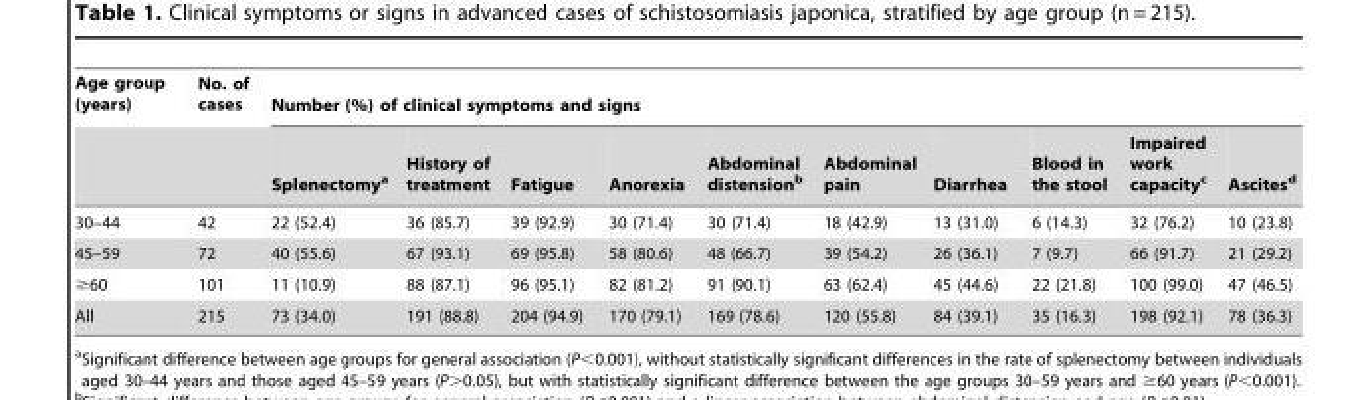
<table><thead><tr><td rowspan="2">Age group (years)</td><td rowspan="2">No. of cases</td><td colspan="10">Number (%) of clinical symptoms and signs</td></tr><tr><td>Splenectomy<sup>a</sup></td><td>History of treatment</td><td>Fatigue</td><td>Anorexia</td><td>Abdominal distension<sup>b</sup></td><td>Abdominal pain</td><td>Diarrhea</td><td>Blood in the stool</td><td>Impaired work capacity<sup>c</sup></td><td>Ascites<sup>d</sup></td></tr></thead><tbody><tr><td>30–44</td><td>42</td><td>22 (52.4)</td><td>36 (85.7)</td><td>39 (92.9)</td><td>30 (71.4)</td><td>30 (71.4)</td><td>18 (42.9)</td><td>13 (31.0)</td><td>6 (14.3)</td><td>32 (76.2)</td><td>10 (23.8)</td></tr><tr><td>45–59</td><td>72</td><td>40 (55.6)</td><td>67 (93.1)</td><td>69 (95.8)</td><td>58 (80.6)</td><td>48 (66.7)</td><td>39 (54.2)</td><td>26 (36.1)</td><td>7 (9.7)</td><td>66 (91.7)</td><td>21 (29.2)</td></tr><tr><td>≥60</td><td>101</td><td>11 (10.9)</td><td>88 (87.1)</td><td>96 (95.1)</td><td>82 (81.2)</td><td>91 (90.1)</td><td>63 (62.4)</td><td>45 (44.6)</td><td>22 (21.8)</td><td>100 (99.0)</td><td>47 (46.5)</td></tr><tr><td>All</td><td>215</td><td>73 (34.0)</td><td>191 (88.8)</td><td>204 (94.9)</td><td>170 (79.1)</td><td>169 (78.6)</td><td>120 (55.8)</td><td>84 (39.1)</td><td>35 (16.3)</td><td>198 (92.1)</td><td>78 (36.3)</td></tr></tbody></table>